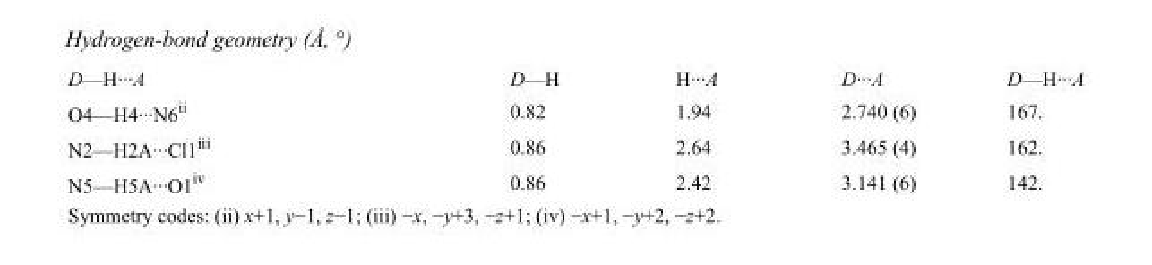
<table><tbody><tr><td>D—H···A</td><td>D—H</td><td>H···A</td><td>D···A</td><td>D—H···A</td></tr><tr><td>O4—H4···N6<sup>ii</sup></td><td>0.82</td><td>1.94</td><td>2.740 (6)</td><td>167.</td></tr><tr><td>N2—H2A···Cl1<sup>iii</sup></td><td>0.86</td><td>2.64</td><td>3.465 (4)</td><td>162.</td></tr><tr><td>N5—H5A···O1<sup>iv</sup></td><td>0.86</td><td>2.42</td><td>3.141 (6)</td><td>142.</td></tr></tbody></table>